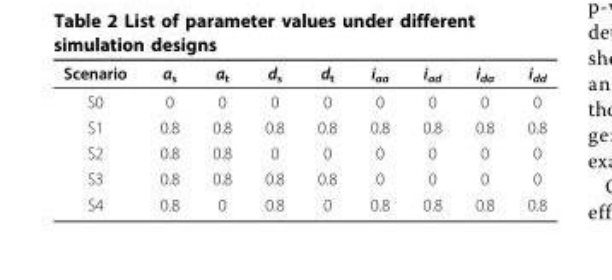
<table><thead><tr><td>Scenario</td><td>a<sub>s</sub></td><td>a<sub>t</sub></td><td>d<sub>s</sub></td><td>d<sub>t</sub></td><td>i<sub>aa</sub></td><td>i<sub>ad</sub></td><td>i<sub>da</sub></td><td>i<sub>dd</sub></td></tr></thead><tbody><tr><td>S0</td><td>0</td><td>0</td><td>0</td><td>0</td><td>0</td><td>0</td><td>0</td><td>0</td></tr><tr><td>S1</td><td>0.8</td><td>0.8</td><td>0.8</td><td>0.8</td><td>0.8</td><td>0.8</td><td>0.8</td><td>0.8</td></tr><tr><td>S2</td><td>0.8</td><td>0.8</td><td>0</td><td>0</td><td>0</td><td>0</td><td>0</td><td>0</td></tr><tr><td>S3</td><td>0.8</td><td>0.8</td><td>0.8</td><td>0.8</td><td>0</td><td>0</td><td>0</td><td>0</td></tr><tr><td>S4</td><td>0.8</td><td>0</td><td>0.8</td><td>0</td><td>0.8</td><td>0.8</td><td>0.8</td><td>0.8</td></tr></tbody></table>